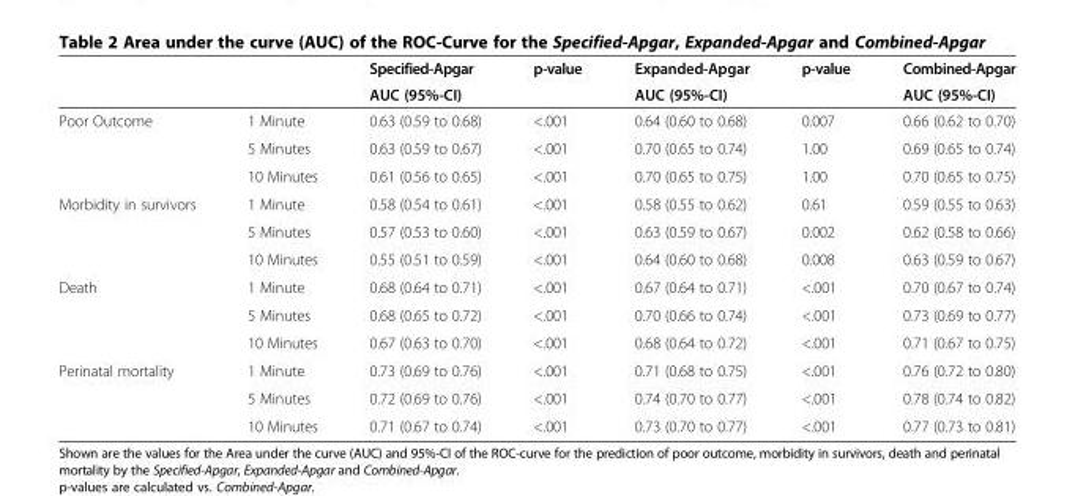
<table><thead><tr><td rowspan="2"></td><td rowspan="2"></td><td rowspan="2">Specified-Apgar AUC (95%-CI)</td><td rowspan="2">p-value</td><td rowspan="2">Expanded-Apgar AUC (95%-CI)</td><td rowspan="2">p-value</td><td rowspan="2">Combined-Apgar AUC (95%-CI)</td></tr><tr></tr></thead><tbody><tr><td rowspan="3">Poor Outcome</td><td>1 Minute</td><td>0.63 (0.59 to 0.68)</td><td>&lt;.001</td><td>0.64 (0.60 to 0.68)</td><td>0.007</td><td>0.66 (0.62 to 0.70)</td></tr><tr><td>5 Minutes</td><td>0.63 (0.59 to 0.67)</td><td>&lt;.001</td><td>0.70 (0.65 to 0.74)</td><td>1.00</td><td>0.69 (0.65 to 0.74)</td></tr><tr><td>10 Minutes</td><td>0.61 (0.56 to 0.65)</td><td>&lt;.001</td><td>0.70 (0.65 to 0.75)</td><td>1.00</td><td>0.70 (0.65 to 0.75)</td></tr><tr><td rowspan="3">Morbidity in survivors</td><td>1 Minute</td><td>0.58 (0.54 to 0.61)</td><td>&lt;.001</td><td>0.58 (0.55 to 0.62)</td><td>0.61</td><td>0.59 (0.55 to 0.63)</td></tr><tr><td>5 Minutes</td><td>0.57 (0.53 to 0.60)</td><td>&lt;.001</td><td>0.63 (0.59 to 0.67)</td><td>0.002</td><td>0.62 (0.58 to 0.66)</td></tr><tr><td>10 Minutes</td><td>0.55 (0.51 to 0.59)</td><td>&lt;.001</td><td>0.64 (0.60 to 0.68)</td><td>0.008</td><td>0.63 (0.59 to 0.67)</td></tr><tr><td rowspan="3">Death</td><td>1 Minute</td><td>0.68 (0.64 to 0.71)</td><td>&lt;.001</td><td>0.67 (0.64 to 0.71)</td><td>&lt;.001</td><td>0.70 (0.67 to 0.74)</td></tr><tr><td>5 Minutes</td><td>0.68 (0.65 to 0.72)</td><td>&lt;.001</td><td>0.70 (0.66 to 0.74)</td><td>&lt;.001</td><td>0.73 (0.69 to 0.77)</td></tr><tr><td>10 Minutes</td><td>0.67 (0.63 to 0.70)</td><td>&lt;.001</td><td>0.68 (0.64 to 0.72)</td><td>&lt;.001</td><td>0.71 (0.67 to 0.75)</td></tr><tr><td rowspan="3">Perinatal mortality</td><td>1 Minute</td><td>0.73 (0.69 to 0.76)</td><td>&lt;.001</td><td>0.71 (0.68 to 0.75)</td><td>&lt;.001</td><td>0.76 (0.72 to 0.80)</td></tr><tr><td>5 Minutes</td><td>0.72 (0.69 to 0.76)</td><td>&lt;.001</td><td>0.74 (0.70 to 0.77)</td><td>&lt;.001</td><td>0.78 (0.74 to 0.82)</td></tr><tr><td>10 Minutes</td><td>0.71 (0.67 to 0.74)</td><td>&lt;.001</td><td>0.73 (0.70 to 0.77)</td><td>&lt;.001</td><td>0.77 (0.73 to 0.81)</td></tr></tbody></table>